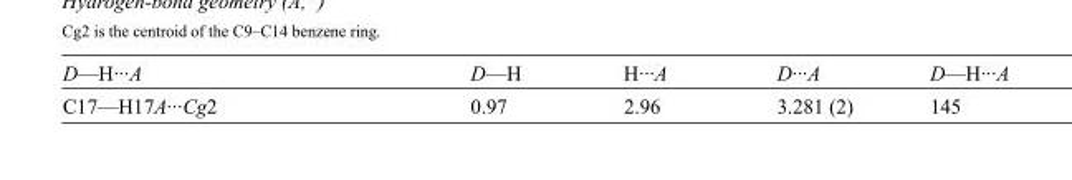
<table><tbody><tr><td>D—H···A</td><td>D—H</td><td>H···A</td><td>D···A</td><td>D—H···A</td></tr><tr><td>C17—H17A···Cg2</td><td>0.97</td><td>2.96</td><td>3.281 (2)</td><td>145</td></tr></tbody></table>